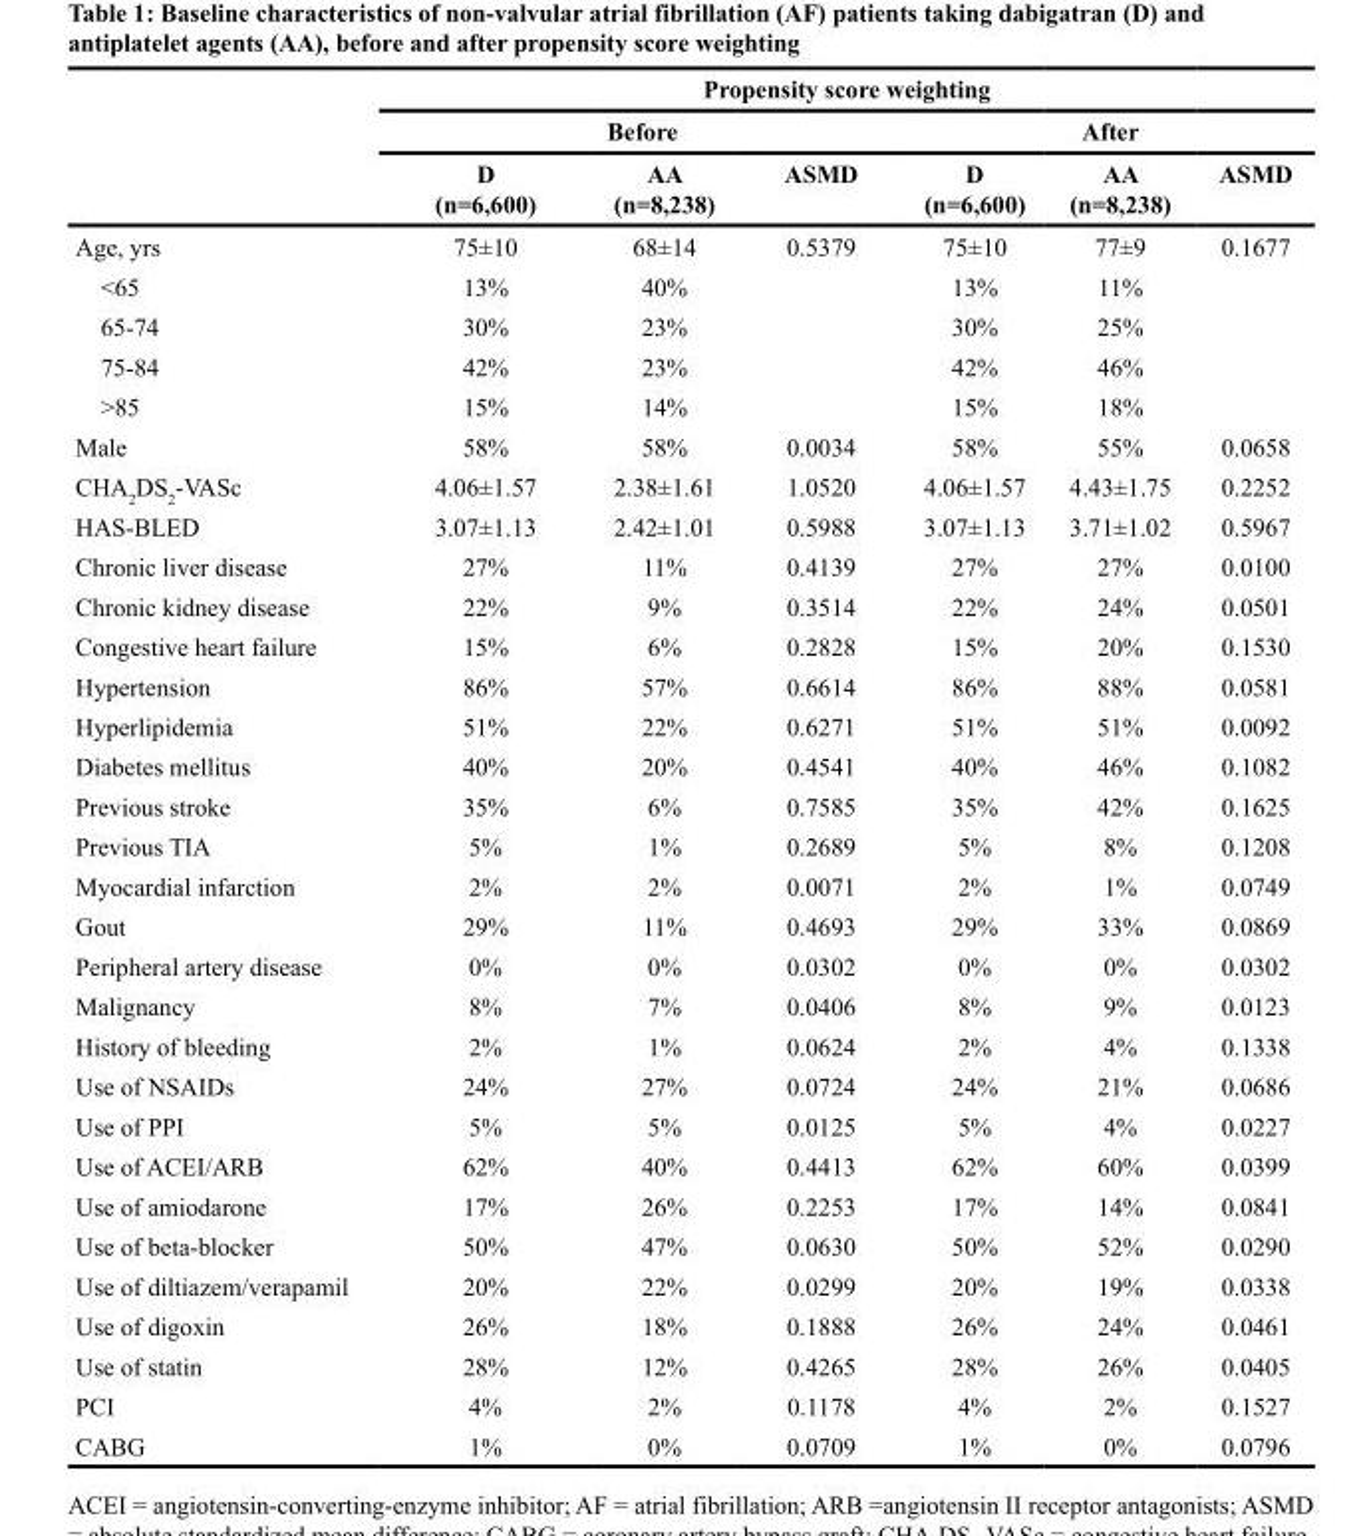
<table><thead><tr><td rowspan="3"></td><td colspan="6">Propensity score weighting</td></tr><tr><td colspan="3">Before</td><td colspan="3">After</td></tr><tr><td>D (n=6,600)</td><td>AA (n=8,238)</td><td>ASMD</td><td>D (n=6,600)</td><td>AA (n=8,238)</td><td>ASMD</td></tr></thead><tbody><tr><td>Age, yrs</td><td>75±10</td><td>68±14</td><td>0.5379</td><td>75±10</td><td>77±9</td><td>0.1677</td></tr><tr><td>&lt;65</td><td>13%</td><td>40%</td><td></td><td>13%</td><td>11%</td><td></td></tr><tr><td>65-74</td><td>30%</td><td>23%</td><td></td><td>30%</td><td>25%</td><td></td></tr><tr><td>75-84</td><td>42%</td><td>23%</td><td></td><td>42%</td><td>46%</td><td></td></tr><tr><td>&gt;85</td><td>15%</td><td>14%</td><td></td><td>15%</td><td>18%</td><td></td></tr><tr><td>Male</td><td>58%</td><td>58%</td><td>0.0034</td><td>58%</td><td>55%</td><td>0.0658</td></tr><tr><td>CHA<sub>2</sub>DS<sub>2</sub>-VASc</td><td>4.06±1.57</td><td>2.38±1.61</td><td>1.0520</td><td>4.06±1.57</td><td>4.43±1.75</td><td>0.2252</td></tr><tr><td>HAS-BLED</td><td>3.07±1.13</td><td>2.42±1.01</td><td>0.5988</td><td>3.07±1.13</td><td>3.71±1.02</td><td>0.5967</td></tr><tr><td>Chronic liver disease</td><td>27%</td><td>11%</td><td>0.4139</td><td>27%</td><td>27%</td><td>0.0100</td></tr><tr><td>Chronic kidney disease</td><td>22%</td><td>9%</td><td>0.3514</td><td>22%</td><td>24%</td><td>0.0501</td></tr><tr><td>Congestive heart failure</td><td>15%</td><td>6%</td><td>0.2828</td><td>15%</td><td>20%</td><td>0.1530</td></tr><tr><td>Hypertension</td><td>86%</td><td>57%</td><td>0.6614</td><td>86%</td><td>88%</td><td>0.0581</td></tr><tr><td>Hyperlipidemia</td><td>51%</td><td>22%</td><td>0.6271</td><td>51%</td><td>51%</td><td>0.0092</td></tr><tr><td>Diabetes mellitus</td><td>40%</td><td>20%</td><td>0.4541</td><td>40%</td><td>46%</td><td>0.1082</td></tr><tr><td>Previous stroke</td><td>35%</td><td>6%</td><td>0.7585</td><td>35%</td><td>42%</td><td>0.1625</td></tr><tr><td>Previous TIA</td><td>5%</td><td>1%</td><td>0.2689</td><td>5%</td><td>8%</td><td>0.1208</td></tr><tr><td>Myocardial infarction</td><td>2%</td><td>2%</td><td>0.0071</td><td>2%</td><td>1%</td><td>0.0749</td></tr><tr><td>Gout</td><td>29%</td><td>11%</td><td>0.4693</td><td>29%</td><td>33%</td><td>0.0869</td></tr><tr><td>Peripheral artery disease</td><td>0%</td><td>0%</td><td>0.0302</td><td>0%</td><td>0%</td><td>0.0302</td></tr><tr><td>Malignancy</td><td>8%</td><td>7%</td><td>0.0406</td><td>8%</td><td>9%</td><td>0.0123</td></tr><tr><td>History of bleeding</td><td>2%</td><td>1%</td><td>0.0624</td><td>2%</td><td>4%</td><td>0.1338</td></tr><tr><td>Use of NSAIDs</td><td>24%</td><td>27%</td><td>0.0724</td><td>24%</td><td>21%</td><td>0.0686</td></tr><tr><td>Use of PPI</td><td>5%</td><td>5%</td><td>0.0125</td><td>5%</td><td>4%</td><td>0.0227</td></tr><tr><td>Use of ACEI/ARB</td><td>62%</td><td>40%</td><td>0.4413</td><td>62%</td><td>60%</td><td>0.0399</td></tr><tr><td>Use of amiodarone</td><td>17%</td><td>26%</td><td>0.2253</td><td>17%</td><td>14%</td><td>0.0841</td></tr><tr><td>Use of beta-blocker</td><td>50%</td><td>47%</td><td>0.0630</td><td>50%</td><td>52%</td><td>0.0290</td></tr><tr><td>Use of diltiazem/verapamil</td><td>20%</td><td>22%</td><td>0.0299</td><td>20%</td><td>19%</td><td>0.0338</td></tr><tr><td>Use of digoxin</td><td>26%</td><td>18%</td><td>0.1888</td><td>26%</td><td>24%</td><td>0.0461</td></tr><tr><td>Use of statin</td><td>28%</td><td>12%</td><td>0.4265</td><td>28%</td><td>26%</td><td>0.0405</td></tr><tr><td>PCI</td><td>4%</td><td>2%</td><td>0.1178</td><td>4%</td><td>2%</td><td>0.1527</td></tr><tr><td>CABG</td><td>1%</td><td>0%</td><td>0.0709</td><td>1%</td><td>0%</td><td>0.0796</td></tr></tbody></table>